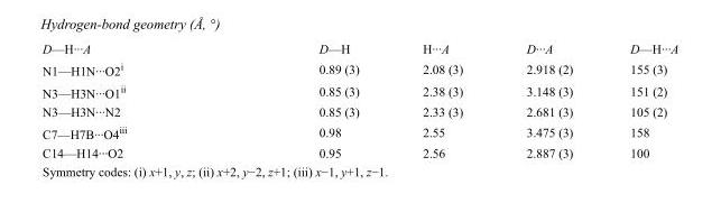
<table><tbody><tr><td>D—H···A</td><td>D—H</td><td>H···A</td><td>D···A</td><td>D—H···A</td></tr><tr><td>N1—H1N···O2<sup>i</sup></td><td>0.89 (3)</td><td>2.08 (3)</td><td>2.918 (2)</td><td>155 (3)</td></tr><tr><td>N3—H3N···O1<sup>ii</sup></td><td>0.85 (3)</td><td>2.38 (3)</td><td>3.148 (3)</td><td>151 (2)</td></tr><tr><td>N3—H3N···N2</td><td>0.85 (3)</td><td>2.33 (3)</td><td>2.681 (3)</td><td>105 (2)</td></tr><tr><td>C7—H7B···O4<sup>iii</sup></td><td>0.98</td><td>2.55</td><td>3.475 (3)</td><td>158</td></tr><tr><td>C14—H14···O2</td><td>0.95</td><td>2.56</td><td>2.887 (3)</td><td>100</td></tr></tbody></table>